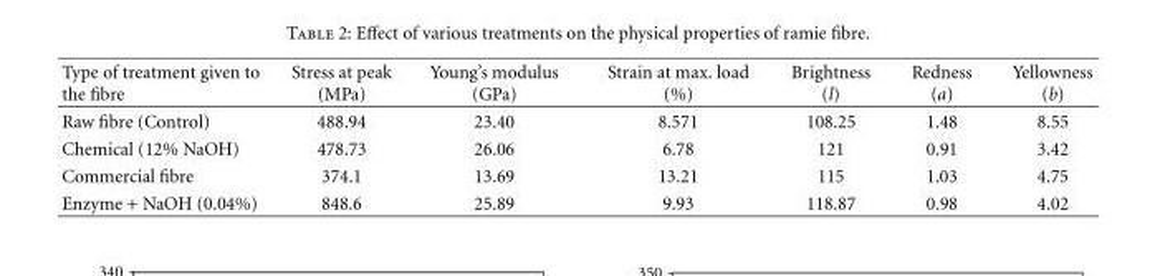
<table><thead><tr><td>Type of treatment given to the fibre</td><td>Stress at peak (MPa)</td><td>Young’s modulus (GPa)</td><td>Strain at max. load (%)</td><td>Brightness (l)</td><td>Redness (a)</td><td>Yellowness (b)</td></tr></thead><tbody><tr><td>Raw fibre (Control)</td><td>488.94</td><td>23.40</td><td>8.571</td><td>108.25</td><td>1.48</td><td>8.55</td></tr><tr><td>Chemical (12% NaOH)</td><td>478.73</td><td>26.06</td><td>6.78</td><td>121</td><td>0.91</td><td>3.42</td></tr><tr><td>Commercial fibre</td><td>374.1</td><td>13.69</td><td>13.21</td><td>115</td><td>1.03</td><td>4.75</td></tr><tr><td>Enzyme + NaOH (0.04%)</td><td>848.6</td><td>25.89</td><td>9.93</td><td>118.87</td><td>0.98</td><td>4.02</td></tr></tbody></table>